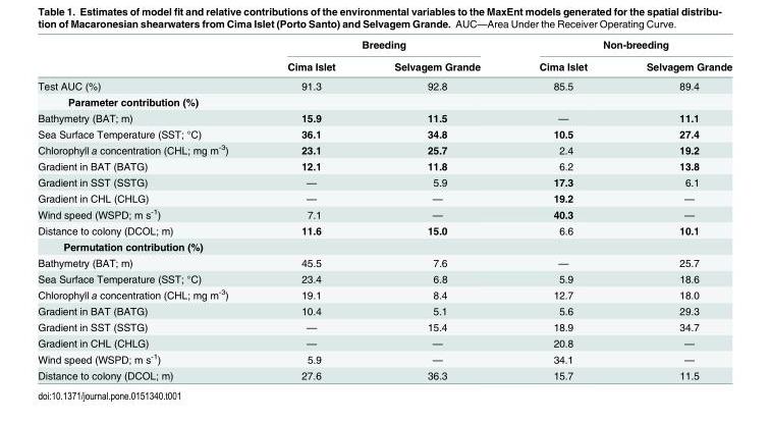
<table><thead><tr><td rowspan="2"></td><td colspan="2">Breeding</td><td colspan="2">Non-breeding</td></tr><tr><td>Cima Islet</td><td>Selvagem Grande</td><td>Cima Islet</td><td>Selvagem Grande</td></tr></thead><tbody><tr><td>Test AUC (%)</td><td>91.3</td><td>92.8</td><td>85.5</td><td>89.4</td></tr><tr><td colspan="5">Parameter contribution (%)</td></tr><tr><td>Bathymetry (BAT; m)</td><td>15.9</td><td>11.5</td><td>—</td><td>11.1</td></tr><tr><td>Sea Surface Temperature (SST; °C)</td><td>36.1</td><td>34.8</td><td>10.5</td><td>27.4</td></tr><tr><td>Chlorophyll a concentration (CHL; mg m<sup>-3</sup>)</td><td>23.1</td><td>25.7</td><td>2.4</td><td>19.2</td></tr><tr><td>Gradient in BAT (BATG)</td><td>12.1</td><td>11.8</td><td>6.2</td><td>13.8</td></tr><tr><td>Gradient in SST (SSTG)</td><td>—</td><td>5.9</td><td>17.3</td><td>6.1</td></tr><tr><td>Gradient in CHL (CHLG)</td><td>—</td><td>—</td><td>19.2</td><td>—</td></tr><tr><td>Wind speed (WSPD; m s<sup>-1</sup>)</td><td>7.1</td><td>—</td><td>40.3</td><td>—</td></tr><tr><td>Distance to colony (DCOL; m)</td><td>11.6</td><td>15.0</td><td>6.6</td><td>10.1</td></tr><tr><td colspan="5">Permutation contribution (%)</td></tr><tr><td>Bathymetry (BAT; m)</td><td>45.5</td><td>7.6</td><td>—</td><td>25.7</td></tr><tr><td>Sea Surface Temperature (SST; °C)</td><td>23.4</td><td>6.8</td><td>5.9</td><td>18.6</td></tr><tr><td>Chlorophyll a concentration (CHL; mg m<sup>-3</sup>)</td><td>19.1</td><td>8.4</td><td>12.7</td><td>18.0</td></tr><tr><td>Gradient in BAT (BATG)</td><td>10.4</td><td>5.1</td><td>5.6</td><td>29.3</td></tr><tr><td>Gradient in SST (SSTG)</td><td>—</td><td>15.4</td><td>18.9</td><td>34.7</td></tr><tr><td>Gradient in CHL (CHLG)</td><td>—</td><td>—</td><td>20.8</td><td>—</td></tr><tr><td>Wind speed (WSPD; m s<sup>-1</sup>)</td><td>5.9</td><td>—</td><td>34.1</td><td>—</td></tr><tr><td>Distance to colony (DCOL; m)</td><td>27.6</td><td>36.3</td><td>15.7</td><td>11.5</td></tr></tbody></table>